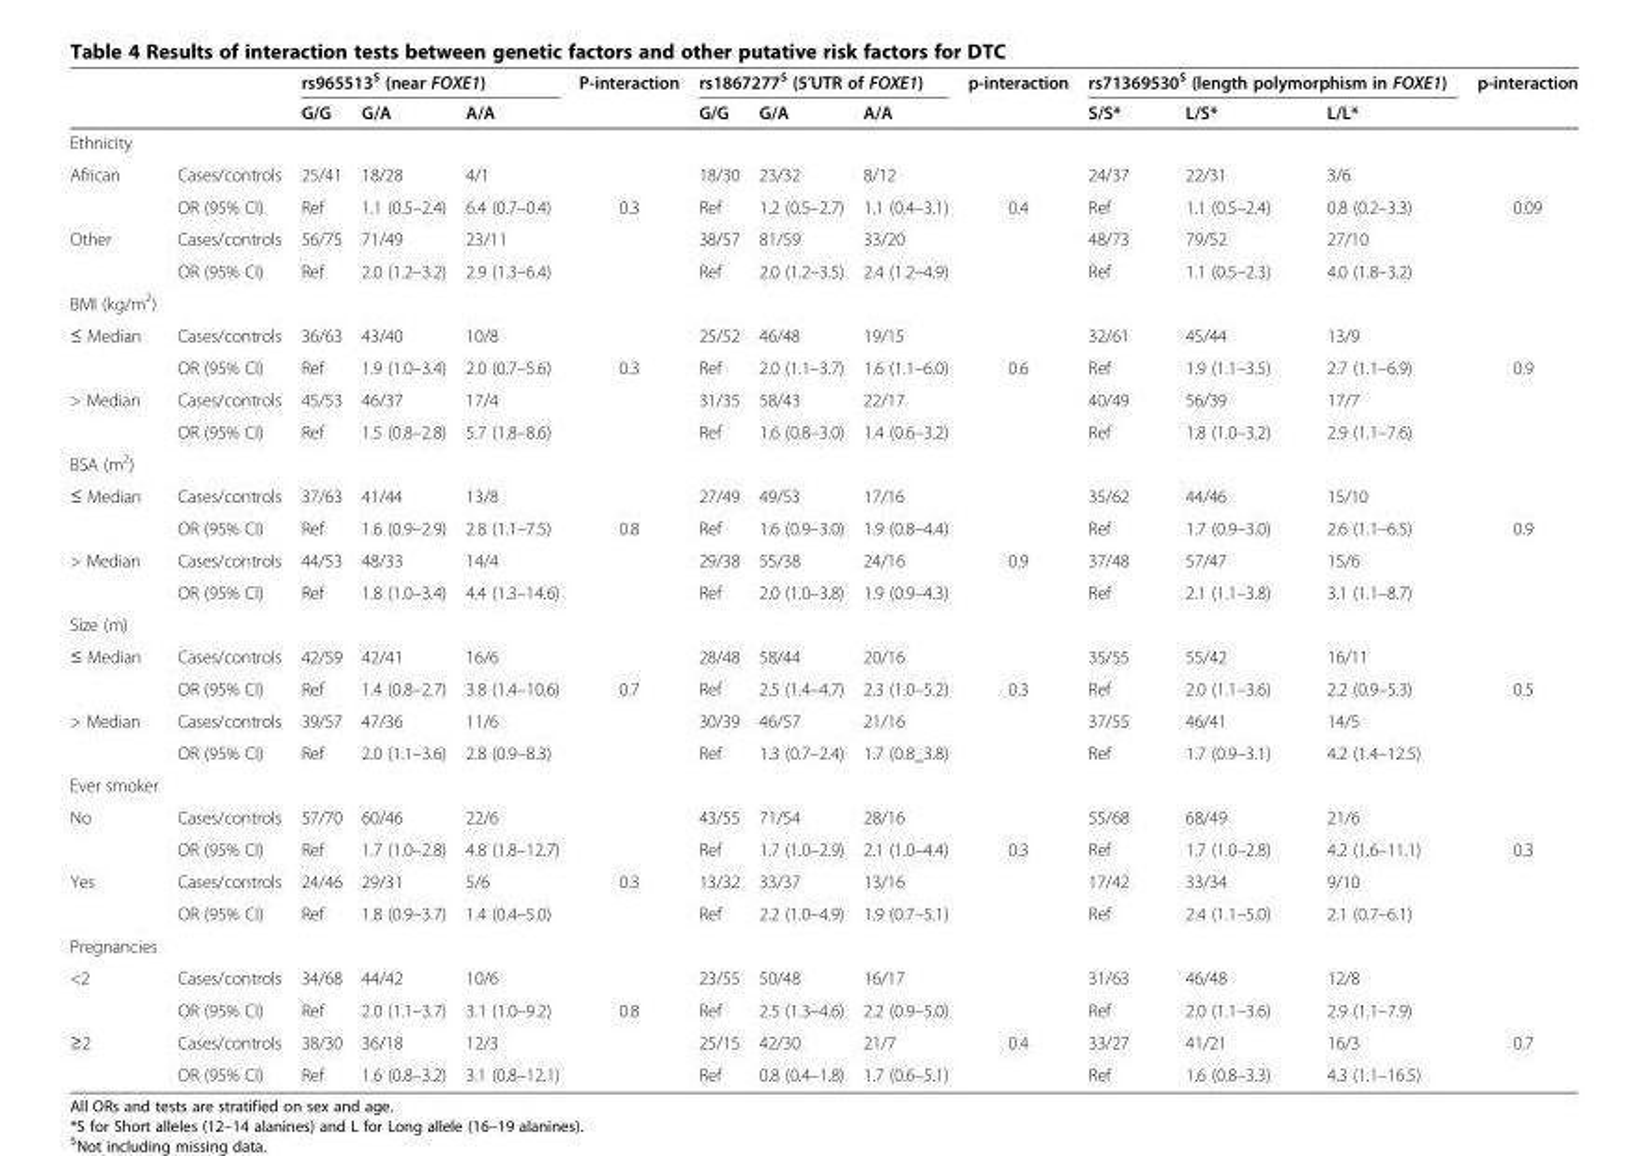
<table><thead><tr><td rowspan="2"></td><td rowspan="2"></td><td colspan="3">rs965513<sup>$</sup> (near FOXE1)</td><td rowspan="2">P-interaction</td><td colspan="3">rs1867277<sup>$</sup> (5′UTR of FOXE1)</td><td rowspan="2">p-interaction</td><td colspan="3">rs71369530<sup>$</sup> (length polymorphism in FOXE1)</td><td rowspan="2">p-interaction</td></tr><tr><td>G/G</td><td>G/A</td><td>A/A</td><td>G/G</td><td>G/A</td><td>A/A</td><td>S/S*</td><td>L/S*</td><td>L/L*</td></tr></thead><tbody><tr><td colspan="14">Ethnicity</td></tr><tr><td rowspan="2">African</td><td>Cases/controls</td><td>25/41</td><td>18/28</td><td>4/1</td><td></td><td>18/30</td><td>23/32</td><td>8/12</td><td></td><td>24/37</td><td>22/31</td><td>3/6</td><td></td></tr><tr><td>OR (95% CI)</td><td>Ref</td><td>1.1 (0.5–2.4)</td><td>6.4 (0.7–0.4)</td><td>0.3</td><td>Ref</td><td>1.2 (0.5–2.7)</td><td>1.1 (0.4–3.1)</td><td>0.4</td><td>Ref</td><td>1.1 (0.5–2.4)</td><td>0.8 (0.2–3.3)</td><td>0.09</td></tr><tr><td rowspan="2">Other</td><td>Cases/controls</td><td>56/75</td><td>71/49</td><td>23/11</td><td></td><td>38/57</td><td>81/59</td><td>33/20</td><td></td><td>48/73</td><td>79/52</td><td>27/10</td><td></td></tr><tr><td>OR (95% CI)</td><td>Ref</td><td>2.0 (1.2–3.2)</td><td>2.9 (1.3–6.4)</td><td></td><td>Ref</td><td>2.0 (1.2–3.5)</td><td>2.4 (1.2–4.9)</td><td></td><td>Ref</td><td>1.1 (0.5–2.3)</td><td>4.0 (1.8–3.2)</td><td></td></tr><tr><td colspan="14">BMI (kg/m<sup>2</sup>)</td></tr><tr><td rowspan="2">≤ Median</td><td>Cases/controls</td><td>36/63</td><td>43/40</td><td>10/8</td><td></td><td>25/52</td><td>46/48</td><td>19/15</td><td></td><td>32/61</td><td>45/44</td><td>13/9</td><td></td></tr><tr><td>OR (95% CI)</td><td>Ref</td><td>1.9 (1.0–3.4)</td><td>2.0 (0.7–5.6)</td><td>0.3</td><td>Ref</td><td>2.0 (1.1–3.7)</td><td>1.6 (1.1–6.0)</td><td>0.6</td><td>Ref</td><td>1.9 (1.1–3.5)</td><td>2.7 (1.1–6.9)</td><td>0.9</td></tr><tr><td rowspan="2">&gt; Median</td><td>Cases/controls</td><td>45/53</td><td>46/37</td><td>17/4</td><td></td><td>31/35</td><td>58/43</td><td>22/17</td><td></td><td>40/49</td><td>56/39</td><td>17/7</td><td></td></tr><tr><td>OR (95% CI)</td><td>Ref</td><td>1.5 (0.8–2.8)</td><td>5.7 (1.8–8.6)</td><td></td><td>Ref</td><td>1.6 (0.8–3.0)</td><td>1.4 (0.6–3.2)</td><td></td><td>Ref</td><td>1.8 (1.0–3.2)</td><td>2.9 (1.1–7.6)</td><td></td></tr><tr><td colspan="14">BSA (m<sup>2</sup>)</td></tr><tr><td rowspan="2">≤ Median</td><td>Cases/controls</td><td>37/63</td><td>41/44</td><td>13/8</td><td></td><td>27/49</td><td>49/53</td><td>17/16</td><td></td><td>35/62</td><td>44/46</td><td>15/10</td><td></td></tr><tr><td>OR (95% CI)</td><td>Ref</td><td>1.6 (0.9–2.9)</td><td>2.8 (1.1–7.5)</td><td>0.8</td><td>Ref</td><td>1.6 (0.9–3.0)</td><td>1.9 (0.8–4.4)</td><td></td><td>Ref</td><td>1.7 (0.9–3.0)</td><td>2.6 (1.1–6.5)</td><td>0.9</td></tr><tr><td rowspan="2">&gt; Median</td><td>Cases/controls</td><td>44/53</td><td>48/33</td><td>14/4</td><td></td><td>29/38</td><td>55/38</td><td>24/16</td><td>0.9</td><td>37/48</td><td>57/47</td><td>15/6</td><td></td></tr><tr><td>OR (95% CI)</td><td>Ref</td><td>1.8 (1.0–3.4)</td><td>4.4 (1.3–14.6)</td><td></td><td>Ref</td><td>2.0 (1.0–3.8)</td><td>1.9 (0.9–4.3)</td><td></td><td>Ref</td><td>2.1 (1.1–3.8)</td><td>3.1 (1.1–8.7)</td><td></td></tr><tr><td colspan="14">Size (m)</td></tr><tr><td rowspan="2">≤ Median</td><td>Cases/controls</td><td>42/59</td><td>42/41</td><td>16/6</td><td></td><td>28/48</td><td>58/44</td><td>20/16</td><td></td><td>35/55</td><td>55/42</td><td>16/11</td><td></td></tr><tr><td>OR (95% CI)</td><td>Ref</td><td>1.4 (0.8–2.7)</td><td>3.8 (1.4–10.6)</td><td>0.7</td><td>Ref</td><td>2.5 (1.4–4.7)</td><td>2.3 (1.0–5.2)</td><td>0.3</td><td>Ref</td><td>2.0 (1.1–3.6)</td><td>2.2 (0.9–5.3)</td><td>0.5</td></tr><tr><td rowspan="2">&gt; Median</td><td>Cases/controls</td><td>39/57</td><td>47/36</td><td>11/6</td><td></td><td>30/39</td><td>46/57</td><td>21/16</td><td></td><td>37/55</td><td>46/41</td><td>14/5</td><td></td></tr><tr><td>OR (95% CI)</td><td>Ref</td><td>2.0 (1.1–3.6)</td><td>2.8 (0.9–8.3)</td><td></td><td>Ref</td><td>1.3 (0.7–2.4)</td><td>1.7 (0.8_3.8)</td><td></td><td>Ref</td><td>1.7 (0.9–3.1)</td><td>4.2 (1.4–12.5)</td><td></td></tr><tr><td colspan="14">Ever smoker</td></tr><tr><td rowspan="2">No</td><td>Cases/controls</td><td>57/70</td><td>60/46</td><td>22/6</td><td></td><td>43/55</td><td>71/54</td><td>28/16</td><td></td><td>55/68</td><td>68/49</td><td>21/6</td><td></td></tr><tr><td>OR (95% CI)</td><td>Ref</td><td>1.7 (1.0–2.8)</td><td>4.8 (1.8–12.7)</td><td></td><td>Ref</td><td>1.7 (1.0–2.9)</td><td>2.1 (1.0–4.4)</td><td>0.3</td><td>Ref</td><td>1.7 (1.0–2.8)</td><td>4.2 (1.6–11.1)</td><td>0.3</td></tr><tr><td rowspan="2">Yes</td><td>Cases/controls</td><td>24/46</td><td>29/31</td><td>5/6</td><td>0.3</td><td>13/32</td><td>33/37</td><td>13/16</td><td></td><td>17/42</td><td>33/34</td><td>9/10</td><td></td></tr><tr><td>OR (95% CI)</td><td>Ref</td><td>1.8 (0.9–3.7)</td><td>1.4 (0.4–5.0)</td><td></td><td>Ref</td><td>2.2 (1.0–4.9)</td><td>1.9 (0.7–5.1)</td><td></td><td>Ref</td><td>2.4 (1.1–5.0)</td><td>2.1 (0.7–6.1)</td><td></td></tr><tr><td colspan="14">Pregnancies</td></tr><tr><td rowspan="2">&lt;2</td><td>Cases/controls</td><td>34/68</td><td>44/42</td><td>10/6</td><td></td><td>23/55</td><td>50/48</td><td>16/17</td><td></td><td>31/63</td><td>46/48</td><td>12/8</td><td></td></tr><tr><td>OR (95% CI)</td><td>Ref</td><td>2.0 (1.1–3.7)</td><td>3.1 (1.0–9.2)</td><td>0.8</td><td>Ref</td><td>2.5 (1.3–4.6)</td><td>2.2 (0.9–5.0)</td><td></td><td>Ref</td><td>2.0 (1.1–3.6)</td><td>2.9 (1.1–7.9)</td><td></td></tr><tr><td rowspan="2">≥2</td><td>Cases/controls</td><td>38/30</td><td>36/18</td><td>12/3</td><td></td><td>25/15</td><td>42/30</td><td>21/7</td><td>0.4</td><td>33/27</td><td>41/21</td><td>16/3</td><td>0.7</td></tr><tr><td>OR (95% CI)</td><td>Ref</td><td>1.6 (0.8–3.2)</td><td>3.1 (0.8–12.1)</td><td></td><td>Ref</td><td>0.8 (0.4–1.8)</td><td>1.7 (0.6–5.1)</td><td></td><td>Ref</td><td>1.6 (0.8–3.3)</td><td>4.3 (1.1–16.5)</td><td></td></tr></tbody></table>